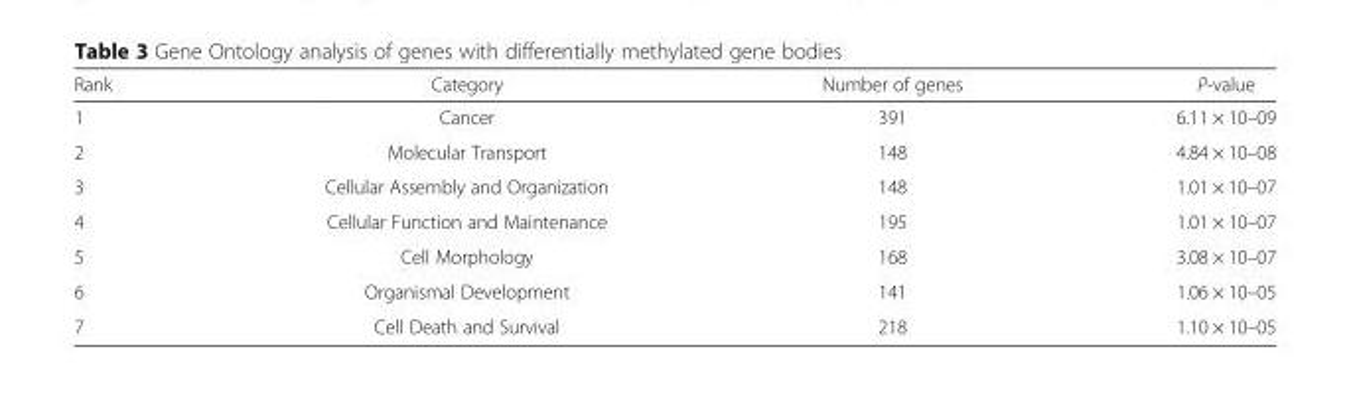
<table><thead><tr><td>Rank</td><td>Category</td><td>Number of genes</td><td>P-value</td></tr></thead><tbody><tr><td>1</td><td>Cancer</td><td>391</td><td>6.11 × 10–09</td></tr><tr><td>2</td><td>Molecular Transport</td><td>148</td><td>4.84 × 10–08</td></tr><tr><td>3</td><td>Cellular Assembly and Organization</td><td>148</td><td>1.01 × 10–07</td></tr><tr><td>4</td><td>Cellular Function and Maintenance</td><td>195</td><td>1.01 × 10–07</td></tr><tr><td>5</td><td>Cell Morphology</td><td>168</td><td>3.08 × 10–07</td></tr><tr><td>6</td><td>Organismal Development</td><td>141</td><td>1.06 × 10–05</td></tr><tr><td>7</td><td>Cell Death and Survival</td><td>218</td><td>1.10 × 10–05</td></tr></tbody></table>